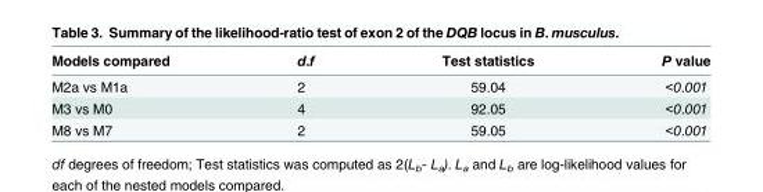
<table><thead><tr><td>Models compared</td><td>d.f</td><td>Test statistics</td><td>P value</td></tr></thead><tbody><tr><td>M2a vs M1a</td><td>2</td><td>59.04</td><td>&lt;0.001</td></tr><tr><td>M3 vs M0</td><td>4</td><td>92.05</td><td>&lt;0.001</td></tr><tr><td>M8 vs M7</td><td>2</td><td>59.05</td><td>&lt;0.001</td></tr></tbody></table>